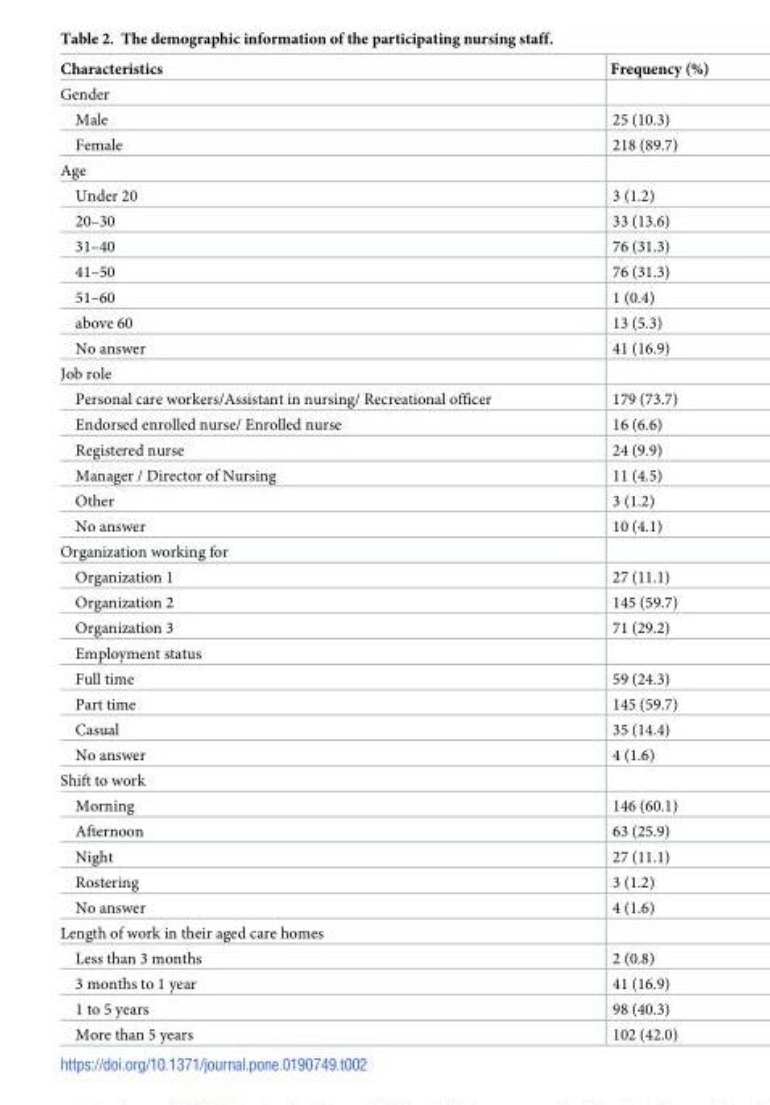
<table><thead><tr><td>Characteristics</td><td>Frequency (%)</td></tr></thead><tbody><tr><td colspan="2">Gender</td></tr><tr><td>Male</td><td>25 (10.3)</td></tr><tr><td>Female</td><td>218 (89.7)</td></tr><tr><td colspan="2">Age</td></tr><tr><td>Under 20</td><td>3 (1.2)</td></tr><tr><td>20–30</td><td>33 (13.6)</td></tr><tr><td>31–40</td><td>76 (31.3)</td></tr><tr><td>41–50</td><td>76 (31.3)</td></tr><tr><td>51–60</td><td>1 (0.4)</td></tr><tr><td>above 60</td><td>13 (5.3)</td></tr><tr><td>No answer</td><td>41 (16.9)</td></tr><tr><td colspan="2">Job role</td></tr><tr><td>Personal care workers/Assistant in nursing/ Recreational officer</td><td>179 (73.7)</td></tr><tr><td>Endorsed enrolled nurse/ Enrolled nurse</td><td>16 (6.6)</td></tr><tr><td>Registered nurse</td><td>24 (9.9)</td></tr><tr><td>Manager / Director of Nursing</td><td>11 (4.5)</td></tr><tr><td>Other</td><td>3 (1.2)</td></tr><tr><td>No answer</td><td>10 (4.1)</td></tr><tr><td colspan="2">Organization working for</td></tr><tr><td>Organization 1</td><td>27 (11.1)</td></tr><tr><td>Organization 2</td><td>145 (59.7)</td></tr><tr><td>Organization 3</td><td>71 (29.2)</td></tr><tr><td colspan="2">Employment status</td></tr><tr><td>Full time</td><td>59 (24.3)</td></tr><tr><td>Part time</td><td>145 (59.7)</td></tr><tr><td>Casual</td><td>35 (14.4)</td></tr><tr><td>No answer</td><td>4 (1.6)</td></tr><tr><td colspan="2">Shift to work</td></tr><tr><td>Morning</td><td>146 (60.1)</td></tr><tr><td>Afternoon</td><td>63 (25.9)</td></tr><tr><td>Night</td><td>27 (11.1)</td></tr><tr><td>Rostering</td><td>3 (1.2)</td></tr><tr><td>No answer</td><td>4 (1.6)</td></tr><tr><td colspan="2">Length of work in their aged care homes</td></tr><tr><td>Less than 3 months</td><td>2 (0.8)</td></tr><tr><td>3 months to 1 year</td><td>41 (16.9)</td></tr><tr><td>1 to 5 years</td><td>98 (40.3)</td></tr><tr><td>More than 5 years</td><td>102 (42.0)</td></tr></tbody></table>